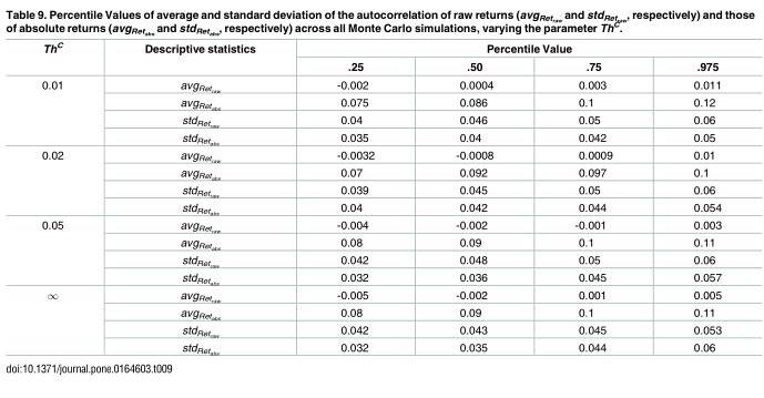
<table><thead><tr><td rowspan="2">Th<sup>C</sup></td><td rowspan="2">Descriptive statistics</td><td colspan="4">Percentile Value</td></tr><tr><td>.25</td><td>.50</td><td>.75</td><td>.975</td></tr></thead><tbody><tr><td rowspan="4">0.01</td><td>avgRetraw</td><td>-0.002</td><td>0.0004</td><td>0.003</td><td>0.011</td></tr><tr><td>avgRetabs</td><td>0.075</td><td>0.086</td><td>0.1</td><td>0.12</td></tr><tr><td>stdRetraw</td><td>0.04</td><td>0.046</td><td>0.05</td><td>0.06</td></tr><tr><td>stdRetabs</td><td>0.035</td><td>0.04</td><td>0.042</td><td>0.05</td></tr><tr><td rowspan="4">0.02</td><td>avgRetraw</td><td>-0.0032</td><td>-0.0008</td><td>0.0009</td><td>0.01</td></tr><tr><td>avgRetabs</td><td>0.07</td><td>0.092</td><td>0.097</td><td>0.1</td></tr><tr><td>stdRetraw</td><td>0.039</td><td>0.045</td><td>0.05</td><td>0.06</td></tr><tr><td>stdRetabs</td><td>0.04</td><td>0.042</td><td>0.044</td><td>0.054</td></tr><tr><td rowspan="4">0.05</td><td>avgRetraw</td><td>-0.004</td><td>-0.002</td><td>-0.001</td><td>0.003</td></tr><tr><td>avgRetabs</td><td>0.08</td><td>0.09</td><td>0.1</td><td>0.11</td></tr><tr><td>stdRetraw</td><td>0.042</td><td>0.048</td><td>0.05</td><td>0.06</td></tr><tr><td>stdRetabs</td><td>0.032</td><td>0.036</td><td>0.045</td><td>0.057</td></tr><tr><td rowspan="4">∞</td><td>avgRetraw</td><td>-0.005</td><td>-0.002</td><td>0.001</td><td>0.005</td></tr><tr><td>avgRetabs</td><td>0.08</td><td>0.09</td><td>0.1</td><td>0.11</td></tr><tr><td>stdRetraw</td><td>0.042</td><td>0.043</td><td>0.045</td><td>0.053</td></tr><tr><td>stdRetabs</td><td>0.032</td><td>0.035</td><td>0.044</td><td>0.06</td></tr></tbody></table>